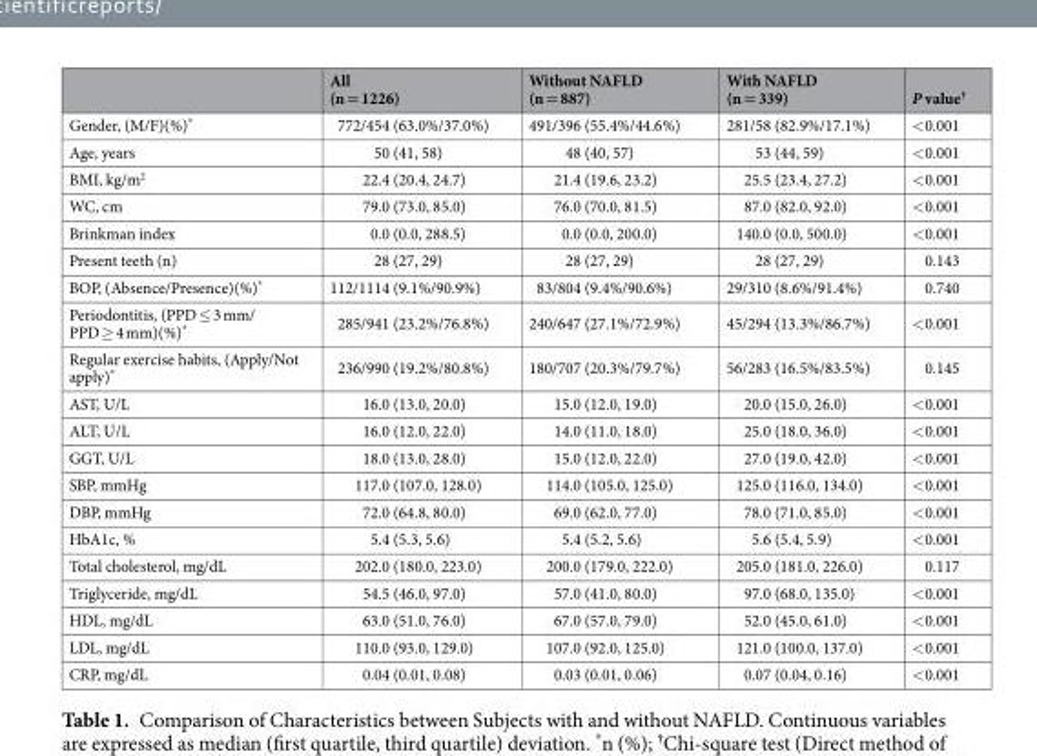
<table><thead><tr><td></td><td>All (n = 1226)</td><td>Without NAFLD (n = 887)</td><td>With NAFLD (n = 339)</td><td>P value<sup>†</sup></td></tr></thead><tbody><tr><td>Gender, (M/F)(%)*</td><td>772/454 (63.0%/37.0%)</td><td>491/396 (55.4%/44.6%)</td><td>281/58 (82.9%/17.1%)</td><td>&lt;0.001</td></tr><tr><td>Age, years</td><td>50 (41, 58)</td><td>48 (40, 57)</td><td>53 (44, 59)</td><td>&lt;0.001</td></tr><tr><td>BMI, kg/m<sup>2</sup></td><td>22.4 (20.4, 24.7)</td><td>21.4 (19.6, 23.2)</td><td>25.5 (23.4, 27.2)</td><td>&lt;0.001</td></tr><tr><td>WC, cm</td><td>79.0 (73.0, 85.0)</td><td>76.0 (70.0, 81.5)</td><td>87.0 (82.0, 92.0)</td><td>&lt;0.001</td></tr><tr><td>Brinkman index</td><td>0.0 (0.0, 288.5)</td><td>0.0 (0.0, 200.0)</td><td>140.0 (0.0, 500.0)</td><td>&lt;0.001</td></tr><tr><td>Present teeth (n)</td><td>28 (27, 29)</td><td>28 (27, 29)</td><td>28 (27, 29)</td><td>0.143</td></tr><tr><td>BOP, (Absence/Presence)(%)*</td><td>112/1114 (9.1%/90.9%)</td><td>83/804 (9.4%/90.6%)</td><td>29/310 (8.6%/91.4%)</td><td>0.740</td></tr><tr><td>Periodontitis, (PPD ≤ 3 mm/ PPD ≥ 4 mm)(%)*</td><td>285/941 (23.2%/76.8%)</td><td>240/647 (27.1%/72.9%)</td><td>45/294 (13.3%/86.7%)</td><td>&lt;0.001</td></tr><tr><td>Regular exercise habits, (Apply/Not apply)*</td><td>236/990 (19.2%/80.8%)</td><td>180/707 (20.3%/79.7%)</td><td>56/283 (16.5%/83.5%)</td><td>0.145</td></tr><tr><td>AST, U/L</td><td>16.0 (13.0, 20.0)</td><td>15.0 (12.0, 19.0)</td><td>20.0 (15.0, 26.0)</td><td>&lt;0.001</td></tr><tr><td>ALT, U/L</td><td>16.0 (12.0, 22.0)</td><td>14.0 (11.0, 18.0)</td><td>25.0 (18.0, 36.0)</td><td>&lt;0.001</td></tr><tr><td>GGT, U/L</td><td>18.0 (13.0, 28.0)</td><td>15.0 (12.0, 22.0)</td><td>27.0 (19.0, 42.0)</td><td>&lt;0.001</td></tr><tr><td>SBP, mmHg</td><td>117.0 (107.0, 128.0)</td><td>114.0 (105.0, 125.0)</td><td>125.0 (116.0, 134.0)</td><td>&lt;0.001</td></tr><tr><td>DBP, mmHg</td><td>72.0 (64.8, 80.0)</td><td>69.0 (62.0, 77.0)</td><td>78.0 (71.0, 85.0)</td><td>&lt;0.001</td></tr><tr><td>HbA1c, %</td><td>5.4 (5.3, 5.6)</td><td>5.4 (5.2, 5.6)</td><td>5.6 (5.4, 5.9)</td><td>&lt;0.001</td></tr><tr><td>Total cholesterol, mg/dL</td><td>202.0 (180.0, 223.0)</td><td>200.0 (179.0, 222.0)</td><td>205.0 (181.0, 226.0)</td><td>0.117</td></tr><tr><td>Triglyceride, mg/dL</td><td>54.5 (46.0, 97.0)</td><td>57.0 (41.0, 80.0)</td><td>97.0 (68.0, 135.0)</td><td>&lt;0.001</td></tr><tr><td>HDL, mg/dL</td><td>63.0 (51.0, 76.0)</td><td>67.0 (57.0, 79.0)</td><td>52.0 (45.0, 61.0)</td><td>&lt;0.001</td></tr><tr><td>LDL, mg/dL</td><td>110.0 (93.0, 129.0)</td><td>107.0 (92.0, 125.0)</td><td>121.0 (100.0, 137.0)</td><td>&lt;0.001</td></tr><tr><td>CRP, mg/dL</td><td>0.04 (0.01, 0.08)</td><td>0.03 (0.01, 0.06)</td><td>0.07 (0.04, 0.16)</td><td>&lt;0.001</td></tr></tbody></table>